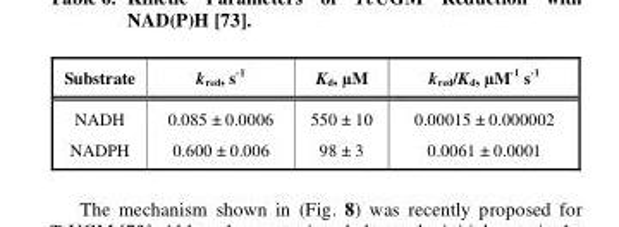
<table><thead><tr><td>Substrate</td><td>k<sub>red</sub>, s<sup>-1</sup></td><td>K<sub>d</sub>, µM</td><td>k<sub>red</sub>/K<sub>d</sub>, µM<sup>-1</sup> s<sup>-1</sup></td></tr></thead><tbody><tr><td>NADH</td><td>0.085 ± 0.0006</td><td>550 ± 10</td><td>0.00015 ± 0.000002</td></tr><tr><td>NADPH</td><td>0.600 ± 0.006</td><td>98 ± 3</td><td>0.0061 ± 0.0001</td></tr></tbody></table>